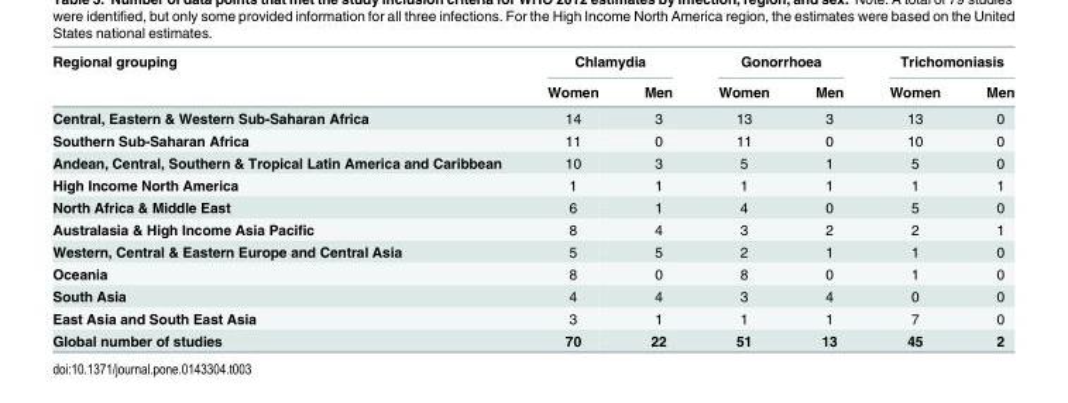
<table><thead><tr><td rowspan="2">Regional grouping</td><td colspan="2">Chlamydia</td><td colspan="2">Gonorrhoea</td><td colspan="2">Trichomoniasis</td></tr><tr><td>Women</td><td>Men</td><td>Women</td><td>Men</td><td>Women</td><td>Men</td></tr></thead><tbody><tr><td>Central, Eastern &amp; Western Sub-Saharan Africa</td><td>14</td><td>3</td><td>13</td><td>3</td><td>13</td><td>0</td></tr><tr><td>Southern Sub-Saharan Africa</td><td>11</td><td>0</td><td>11</td><td>0</td><td>10</td><td>0</td></tr><tr><td>Andean, Central, Southern &amp; Tropical Latin America and Caribbean</td><td>10</td><td>3</td><td>5</td><td>1</td><td>5</td><td>0</td></tr><tr><td>High Income North America</td><td>1</td><td>1</td><td>1</td><td>1</td><td>1</td><td>1</td></tr><tr><td>North Africa &amp; Middle East</td><td>6</td><td>1</td><td>4</td><td>0</td><td>5</td><td>0</td></tr><tr><td>Australasia &amp; High Income Asia Pacific</td><td>8</td><td>4</td><td>3</td><td>2</td><td>2</td><td>1</td></tr><tr><td>Western, Central &amp; Eastern Europe and Central Asia</td><td>5</td><td>5</td><td>2</td><td>1</td><td>1</td><td>0</td></tr><tr><td>Oceania</td><td>8</td><td>0</td><td>8</td><td>0</td><td>1</td><td>0</td></tr><tr><td>South Asia</td><td>4</td><td>4</td><td>3</td><td>4</td><td>0</td><td>0</td></tr><tr><td>East Asia and South East Asia</td><td>3</td><td>1</td><td>1</td><td>1</td><td>7</td><td>0</td></tr><tr><td>Global number of studies</td><td>70</td><td>22</td><td>51</td><td>13</td><td>45</td><td>2</td></tr></tbody></table>